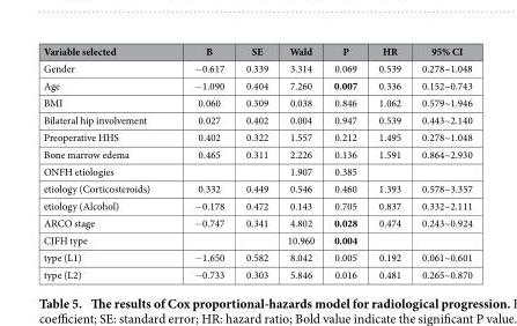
<table><thead><tr><td>Variable selected</td><td>B</td><td>SE</td><td>Wald</td><td>P</td><td>HR</td><td>95% CI</td></tr></thead><tbody><tr><td>Gender</td><td>− 0.617</td><td>0.339</td><td>3.314</td><td>0.069</td><td>0.539</td><td>0.278~1.048</td></tr><tr><td>Age</td><td>− 1.090</td><td>0.404</td><td>7.260</td><td>0.007</td><td>0.336</td><td>0.152~0.743</td></tr><tr><td>BMI</td><td>0.060</td><td>0.309</td><td>0.038</td><td>0.846</td><td>1.062</td><td>0.579~1.946</td></tr><tr><td>Bilateral hip involvement</td><td>0.027</td><td>0.402</td><td>0.004</td><td>0.947</td><td>0.539</td><td>0.443~2.140</td></tr><tr><td>Preoperative HHS</td><td>0.402</td><td>0.322</td><td>1.557</td><td>0.212</td><td>1.495</td><td>0.278~1.048</td></tr><tr><td>Bone marrow edema</td><td>0.465</td><td>0.311</td><td>2.226</td><td>0.136</td><td>1.591</td><td>0.864~2.930</td></tr><tr><td>ONFH etiologies</td><td></td><td></td><td>1.907</td><td>0.385</td><td></td><td></td></tr><tr><td>etiology (Corticosteroids)</td><td>0.332</td><td>0.449</td><td>0.546</td><td>0.460</td><td>1.393</td><td>0.578~3.357</td></tr><tr><td>etiology (Alcohol)</td><td>− 0.178</td><td>0.472</td><td>0.143</td><td>0.705</td><td>0.837</td><td>0.332~2.111</td></tr><tr><td>ARCO stage</td><td>− 0.747</td><td>0.341</td><td>4.802</td><td>0.028</td><td>0.474</td><td>0.243~0.924</td></tr><tr><td>CJFH type</td><td></td><td></td><td>10.960</td><td>0.004</td><td></td><td></td></tr><tr><td>type (L1)</td><td>− 1.650</td><td>0.582</td><td>8.042</td><td>0.005</td><td>0.192</td><td>0.061~0.601</td></tr><tr><td>type (L2)</td><td>− 0.733</td><td>0.303</td><td>5.846</td><td>0.016</td><td>0.481</td><td>0.265~0.870</td></tr></tbody></table>